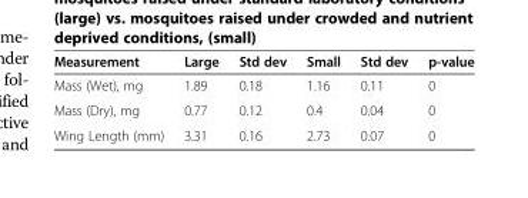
<table><thead><tr><td>Measurement</td><td>Large</td><td>Std dev</td><td>Small</td><td>Std dev</td><td>p-value</td></tr></thead><tbody><tr><td>Mass (Wet), mg</td><td>1.89</td><td>0.18</td><td>1.16</td><td>0.11</td><td>0</td></tr><tr><td>Mass (Dry), mg</td><td>0.77</td><td>0.12</td><td>0.4</td><td>0.04</td><td>0</td></tr><tr><td>Wing Length (mm)</td><td>3.31</td><td>0.16</td><td>2.73</td><td>0.07</td><td>0</td></tr></tbody></table>